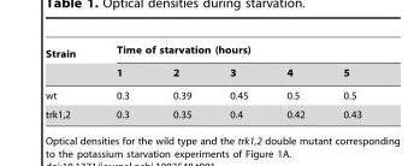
<table><thead><tr><td rowspan="2">Strain</td><td colspan="5">Time of starvation (hours)</td></tr><tr><td>1</td><td>2</td><td>3</td><td>4</td><td>5</td></tr></thead><tbody><tr><td>wt</td><td>0.3</td><td>0.39</td><td>0.45</td><td>0.5</td><td>0.5</td></tr><tr><td>trk1,2</td><td>0.3</td><td>0.35</td><td>0.4</td><td>0.42</td><td>0.43</td></tr></tbody></table>